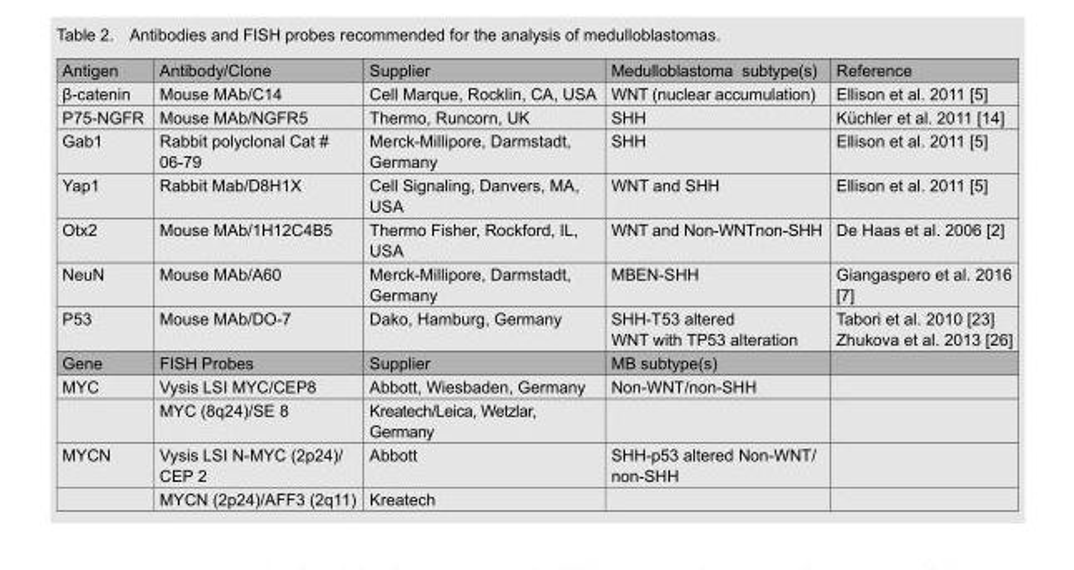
<table><tbody><tr><td>Antigen</td><td>Antibody/Clone</td><td>Supplier</td><td>Medulloblastoma subtype(s)</td><td>Reference</td></tr><tr><td>β-catenin</td><td>Mouse MAb/C14</td><td>Cell Marque, Rocklin, CA, USA</td><td>WNT (nuclear accumulation)</td><td>Ellison et al. 2011 [5]</td></tr><tr><td>P75-NGFR</td><td>Mouse MAb/NGFR5</td><td>Thermo, Runcorn, UK</td><td>SHH</td><td>Küchler et al. 2011 [14]</td></tr><tr><td>Gab1</td><td>Rabbit polyclonal Cat # 06-79</td><td>Merck-Millipore, Darmstadt, Germany</td><td>SHH</td><td>Ellison et al. 2011 [5]</td></tr><tr><td>Yap1</td><td>Rabbit Mab/D8H1X</td><td>Cell Signaling, Danvers, MA, USA</td><td>WNT and SHH</td><td>Ellison et al. 2011 [5]</td></tr><tr><td>Otx2</td><td>Mouse MAb/1H12C4B5</td><td>Thermo Fisher, Rockford, IL, USA</td><td>WNT and Non-WNTnon-SHH</td><td>De Haas et al. 2006 [2]</td></tr><tr><td>NeuN</td><td>Mouse MAb/A60</td><td>Merck-Millipore, Darmstadt, Germany</td><td>MBEN-SHH</td><td>Giangaspero et al. 2016 [7]</td></tr><tr><td>P53</td><td>Mouse MAb/DO-7</td><td>Dako, Hamburg, Germany</td><td>SHH-T53 altered WNT with TP53 alteration</td><td>Tabori et al. 2010 [23] Zhukova et al. 2013 [26]</td></tr><tr><td>Gene</td><td>FISH Probes</td><td>Supplier</td><td>MB subtype(s)</td><td></td></tr><tr><td rowspan="2">MYC</td><td>Vysis LSI MYC/CEP8</td><td>Abbott, Wiesbaden, Germany</td><td>Non-WNT/non-SHH</td><td></td></tr><tr><td>MYC (8q24)/SE 8</td><td>Kreatech/Leica, Wetzlar, Germany</td><td></td><td></td></tr><tr><td rowspan="2">MYCN</td><td>Vysis LSI N-MYC (2p24)/ CEP 2</td><td>Abbott</td><td>SHH-p53 altered Non-WNT/ non-SHH</td><td></td></tr><tr><td>MYCN (2p24)/AFF3 (2q11)</td><td>Kreatech</td><td></td><td></td></tr></tbody></table>